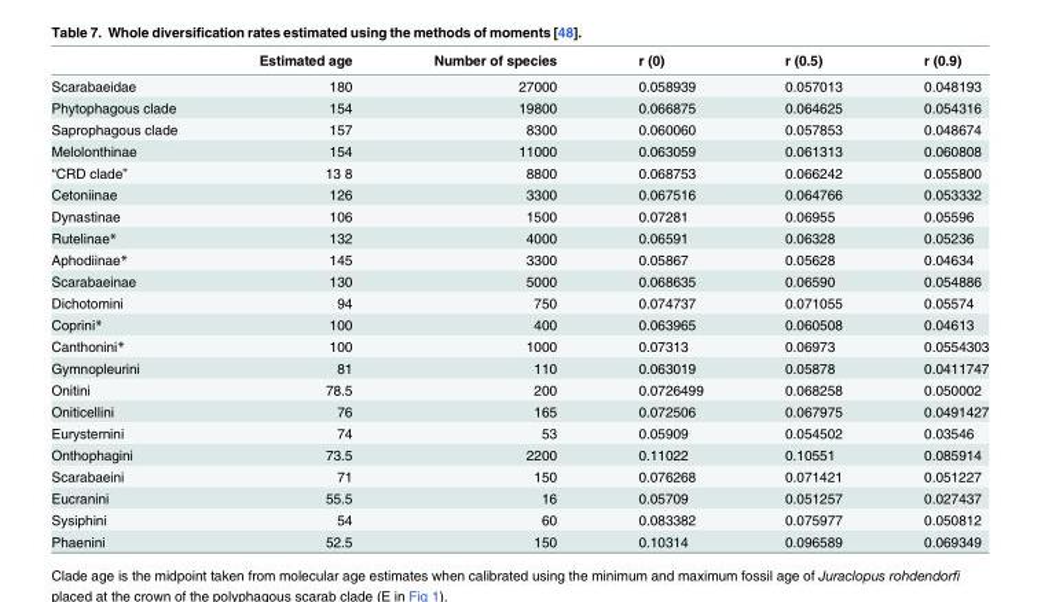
<table><thead><tr><td></td><td>Estimated age</td><td>Number of species</td><td>r (0)</td><td>r (0.5)</td><td>r (0.9)</td></tr></thead><tbody><tr><td>Scarabaeidae</td><td>180</td><td>27000</td><td>0.058939</td><td>0.057013</td><td>0.048193</td></tr><tr><td>Phytophagous clade</td><td>154</td><td>19800</td><td>0.066875</td><td>0.064625</td><td>0.054316</td></tr><tr><td>Saprophagous clade</td><td>157</td><td>8300</td><td>0.060060</td><td>0.057853</td><td>0.048674</td></tr><tr><td>Melolonthinae</td><td>154</td><td>11000</td><td>0.063059</td><td>0.061313</td><td>0.060808</td></tr><tr><td>“CRD clade”</td><td>13 8</td><td>8800</td><td>0.068753</td><td>0.066242</td><td>0.055800</td></tr><tr><td>Cetoniinae</td><td>126</td><td>3300</td><td>0.067516</td><td>0.064766</td><td>0.053332</td></tr><tr><td>Dynastinae</td><td>106</td><td>1500</td><td>0.07281</td><td>0.06955</td><td>0.05596</td></tr><tr><td>Rutelinae*</td><td>132</td><td>4000</td><td>0.06591</td><td>0.06328</td><td>0.05236</td></tr><tr><td>Aphodiinae*</td><td>145</td><td>3300</td><td>0.05867</td><td>0.05628</td><td>0.04634</td></tr><tr><td>Scarabaeinae</td><td>130</td><td>5000</td><td>0.068635</td><td>0.06590</td><td>0.054886</td></tr><tr><td>Dichotomini</td><td>94</td><td>750</td><td>0.074737</td><td>0.071055</td><td>0.05574</td></tr><tr><td>Coprini*</td><td>100</td><td>400</td><td>0.063965</td><td>0.060508</td><td>0.04613</td></tr><tr><td>Canthonini*</td><td>100</td><td>1000</td><td>0.07313</td><td>0.06973</td><td>0.0554303</td></tr><tr><td>Gymnopleurini</td><td>81</td><td>110</td><td>0.063019</td><td>0.05878</td><td>0.0411747</td></tr><tr><td>Onitini</td><td>78.5</td><td>200</td><td>0.0726499</td><td>0.068258</td><td>0.050002</td></tr><tr><td>Oniticellini</td><td>76</td><td>165</td><td>0.072506</td><td>0.067975</td><td>0.0491427</td></tr><tr><td>Eurysternini</td><td>74</td><td>53</td><td>0.05909</td><td>0.054502</td><td>0.03546</td></tr><tr><td>Onthophagini</td><td>73.5</td><td>2200</td><td>0.11022</td><td>0.10551</td><td>0.085914</td></tr><tr><td>Scarabaeini</td><td>71</td><td>150</td><td>0.076268</td><td>0.071421</td><td>0.051227</td></tr><tr><td>Eucranini</td><td>55.5</td><td>16</td><td>0.05709</td><td>0.051257</td><td>0.027437</td></tr><tr><td>Sysiphini</td><td>54</td><td>60</td><td>0.083382</td><td>0.075977</td><td>0.050812</td></tr><tr><td>Phaenini</td><td>52.5</td><td>150</td><td>0.10314</td><td>0.096589</td><td>0.069349</td></tr></tbody></table>